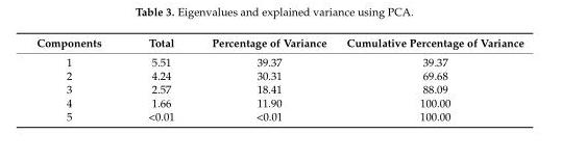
<table><thead><tr><td>Components</td><td>Total</td><td>Percentage of Variance</td><td>Cumulative Percentage of Variance</td></tr></thead><tbody><tr><td>1</td><td>5.51</td><td>39.37</td><td>39.37</td></tr><tr><td>2</td><td>4.24</td><td>30.31</td><td>69.68</td></tr><tr><td>3</td><td>2.57</td><td>18.41</td><td>88.09</td></tr><tr><td>4</td><td>1.66</td><td>11.90</td><td>100.00</td></tr><tr><td>5</td><td>&lt;0.01</td><td>&lt;0.01</td><td>100.00</td></tr></tbody></table>